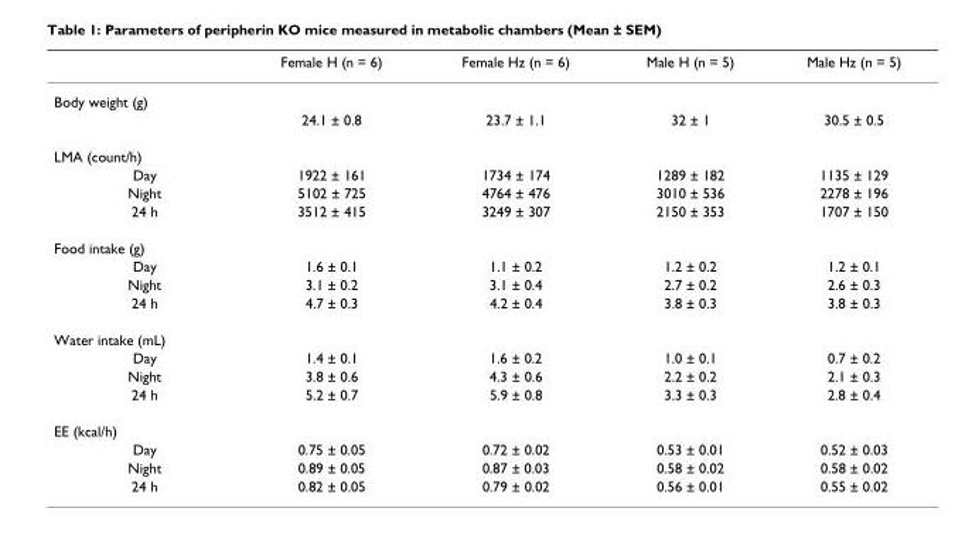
<table><thead><tr><td></td><td>Female H (n = 6)</td><td>Female Hz (n = 6)</td><td>Male H (n = 5)</td><td>Male Hz (n = 5)</td></tr></thead><tbody><tr><td colspan="5">Body weight (g)</td></tr><tr><td></td><td>24.1 ± 0.8</td><td>23.7 ± 1.1</td><td>32 ± 1</td><td>30.5 ± 0.5</td></tr><tr><td colspan="5">LMA (count/h)</td></tr><tr><td>Day</td><td>1922 ± 161</td><td>1734 ± 174</td><td>1289 ± 182</td><td>1135 ± 129</td></tr><tr><td>Night</td><td>5102 ± 725</td><td>4764 ± 476</td><td>3010 ± 536</td><td>2278 ± 196</td></tr><tr><td>24 h</td><td>3512 ± 415</td><td>3249 ± 307</td><td>2150 ± 353</td><td>1707 ± 150</td></tr><tr><td colspan="5">Food intake (g)</td></tr><tr><td>Day</td><td>1.6 ± 0.1</td><td>1.1 ± 0.2</td><td>1.2 ± 0.2</td><td>1.2 ± 0.1</td></tr><tr><td>Night</td><td>3.1 ± 0.2</td><td>3.1 ± 0.4</td><td>2.7 ± 0.2</td><td>2.6 ± 0.3</td></tr><tr><td>24 h</td><td>4.7 ± 0.3</td><td>4.2 ± 0.4</td><td>3.8 ± 0.3</td><td>3.8 ± 0.3</td></tr><tr><td colspan="5">Water intake (mL)</td></tr><tr><td>Day</td><td>1.4 ± 0.1</td><td>1.6 ± 0.2</td><td>1.0 ± 0.1</td><td>0.7 ± 0.2</td></tr><tr><td>Night</td><td>3.8 ± 0.6</td><td>4.3 ± 0.6</td><td>2.2 ± 0.2</td><td>2.1 ± 0.3</td></tr><tr><td>24 h</td><td>5.2 ± 0.7</td><td>5.9 ± 0.8</td><td>3.3 ± 0.3</td><td>2.8 ± 0.4</td></tr><tr><td colspan="5">EE (kcal/h)</td></tr><tr><td>Day</td><td>0.75 ± 0.05</td><td>0.72 ± 0.02</td><td>0.53 ± 0.01</td><td>0.52 ± 0.03</td></tr><tr><td>Night</td><td>0.89 ± 0.05</td><td>0.87 ± 0.03</td><td>0.58 ± 0.02</td><td>0.58 ± 0.02</td></tr><tr><td>24 h</td><td>0.82 ± 0.05</td><td>0.79 ± 0.02</td><td>0.56 ± 0.01</td><td>0.55 ± 0.02</td></tr></tbody></table>